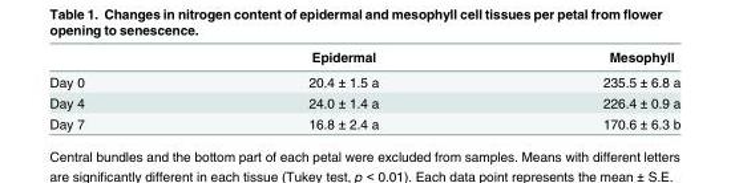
<table><thead><tr><td></td><td>Epidermal</td><td>Mesophyll</td></tr></thead><tbody><tr><td>Day 0</td><td>20.4 ± 1.5 a</td><td>235.5 ± 6.8 a</td></tr><tr><td>Day 4</td><td>24.0 ± 1.4 a</td><td>226.4 ± 0.9 a</td></tr><tr><td>Day 7</td><td>16.8 ± 2.4 a</td><td>170.6 ± 6.3 b</td></tr></tbody></table>